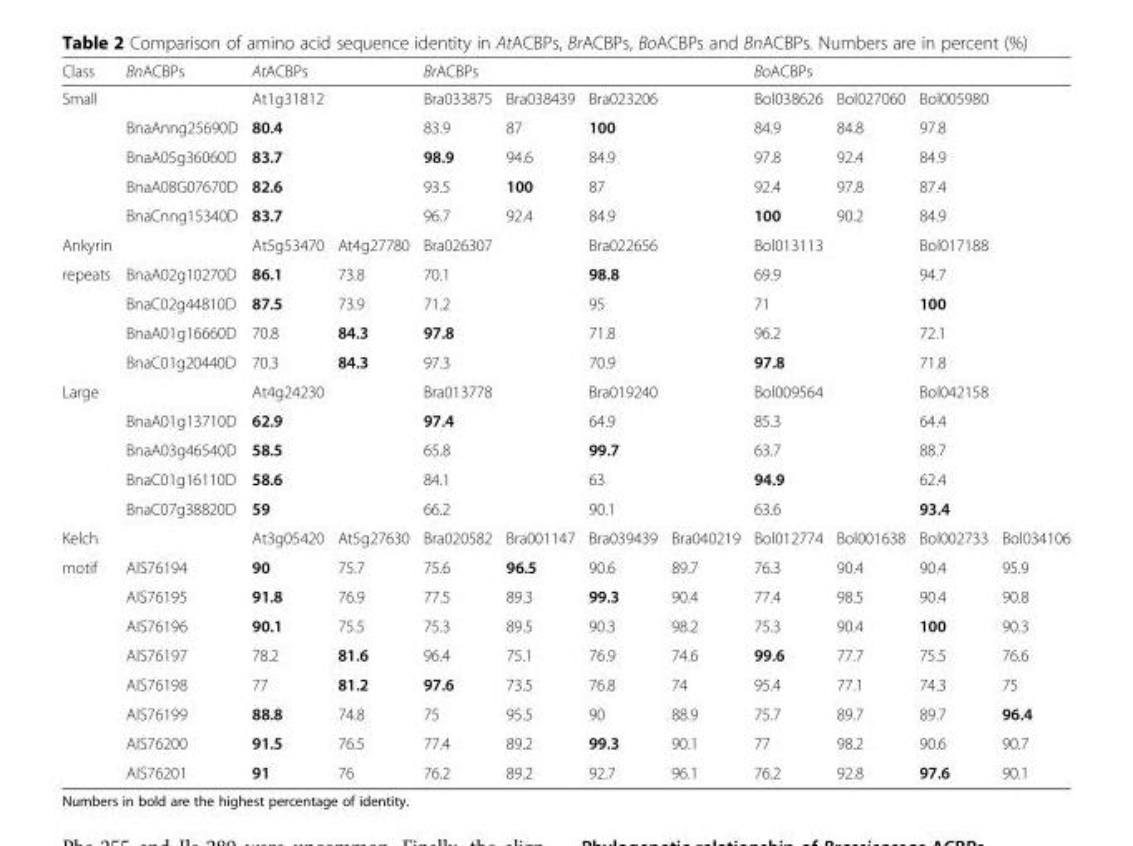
<table><thead><tr><td>Class</td><td>BnACBPs</td><td colspan="2">AtACBPs</td><td colspan="4">BrACBPs</td><td colspan="4">BoACBPs</td></tr></thead><tbody><tr><td rowspan="5">Small</td><td></td><td colspan="2">At1g31812</td><td>Bra033875</td><td>Bra038439</td><td>Bra023206</td><td></td><td>Bol038626</td><td>Bol027060</td><td>Bol005980</td><td></td></tr><tr><td>BnaAnng25690D</td><td colspan="2">80.4</td><td>83.9</td><td>87</td><td>100</td><td></td><td>84.9</td><td>84.8</td><td>97.8</td><td></td></tr><tr><td>BnaA05g36060D</td><td colspan="2">83.7</td><td>98.9</td><td>94.6</td><td>84.9</td><td></td><td>97.8</td><td>92.4</td><td>84.9</td><td></td></tr><tr><td>BnaA08G07670D</td><td colspan="2">82.6</td><td>93.5</td><td>100</td><td>87</td><td></td><td>92.4</td><td>97.8</td><td>87.4</td><td></td></tr><tr><td>BnaCnng15340D</td><td colspan="2">83.7</td><td>96.7</td><td>92.4</td><td>84.9</td><td></td><td>100</td><td>90.2</td><td>84.9</td><td></td></tr><tr><td>Ankyrin</td><td></td><td>At5g53470</td><td>At4g27780</td><td colspan="2">Bra026307</td><td colspan="2">Bra022656</td><td colspan="2">Bol013113</td><td colspan="2">Bol017188</td></tr><tr><td rowspan="4">repeats</td><td>BnaA02g10270D</td><td>86.1</td><td>73.8</td><td colspan="2">70.1</td><td colspan="2">98.8</td><td colspan="2">69.9</td><td colspan="2">94.7</td></tr><tr><td>BnaC02g44810D</td><td>87.5</td><td>73.9</td><td colspan="2">71.2</td><td colspan="2">95</td><td colspan="2">71</td><td colspan="2">100</td></tr><tr><td>BnaA01g16660D</td><td>70.8</td><td>84.3</td><td colspan="2">97.8</td><td colspan="2">71.8</td><td colspan="2">96.2</td><td colspan="2">72.1</td></tr><tr><td>BnaC01g20440D</td><td>70.3</td><td>84.3</td><td colspan="2">97.3</td><td colspan="2">70.9</td><td colspan="2">97.8</td><td colspan="2">71.8</td></tr><tr><td rowspan="5">Large</td><td></td><td colspan="2">At4g24230</td><td colspan="2">Bra013778</td><td colspan="2">Bra019240</td><td colspan="2">Bol009564</td><td colspan="2">Bol042158</td></tr><tr><td>BnaA01g13710D</td><td colspan="2">62.9</td><td colspan="2">97.4</td><td colspan="2">64.9</td><td colspan="2">85.3</td><td colspan="2">64.4</td></tr><tr><td>BnaA03g46540D</td><td colspan="2">58.5</td><td colspan="2">65.8</td><td colspan="2">99.7</td><td colspan="2">63.7</td><td colspan="2">88.7</td></tr><tr><td>BnaC01g16110D</td><td colspan="2">58.6</td><td colspan="2">84.1</td><td colspan="2">63</td><td colspan="2">94.9</td><td colspan="2">62.4</td></tr><tr><td>BnaC07g38820D</td><td colspan="2">59</td><td colspan="2">66.2</td><td colspan="2">90.1</td><td colspan="2">63.6</td><td colspan="2">93.4</td></tr><tr><td>Kelch</td><td></td><td>At3g05420</td><td>At5g27630</td><td>Bra020582</td><td>Bra001147</td><td>Bra039439</td><td>Bra040219</td><td>Bol012774</td><td>Bol001638</td><td>Bol002733</td><td>Bol034106</td></tr><tr><td rowspan="8">motif</td><td>AIS76194</td><td>90</td><td>75.7</td><td>75.6</td><td>96.5</td><td>90.6</td><td>89.7</td><td>76.3</td><td>90.4</td><td>90.4</td><td>95.9</td></tr><tr><td>AIS76195</td><td>91.8</td><td>76.9</td><td>77.5</td><td>89.3</td><td>99.3</td><td>90.4</td><td>77.4</td><td>98.5</td><td>90.4</td><td>90.8</td></tr><tr><td>AIS76196</td><td>90.1</td><td>75.5</td><td>75.3</td><td>89.5</td><td>90.3</td><td>98.2</td><td>75.3</td><td>90.4</td><td>100</td><td>90.3</td></tr><tr><td>AIS76197</td><td>78.2</td><td>81.6</td><td>96.4</td><td>75.1</td><td>76.9</td><td>74.6</td><td>99.6</td><td>77.7</td><td>75.5</td><td>76.6</td></tr><tr><td>AIS76198</td><td>77</td><td>81.2</td><td>97.6</td><td>73.5</td><td>76.8</td><td>74</td><td>95.4</td><td>77.1</td><td>74.3</td><td>75</td></tr><tr><td>AIS76199</td><td>88.8</td><td>74.8</td><td>75</td><td>95.5</td><td>90</td><td>88.9</td><td>75.7</td><td>89.7</td><td>89.7</td><td>96.4</td></tr><tr><td>AIS76200</td><td>91.5</td><td>76.5</td><td>77.4</td><td>89.2</td><td>99.3</td><td>90.1</td><td>77</td><td>98.2</td><td>90.6</td><td>90.7</td></tr><tr><td>AIS76201</td><td>91</td><td>76</td><td>76.2</td><td>89.2</td><td>92.7</td><td>96.1</td><td>76.2</td><td>92.8</td><td>97.6</td><td>90.1</td></tr></tbody></table>